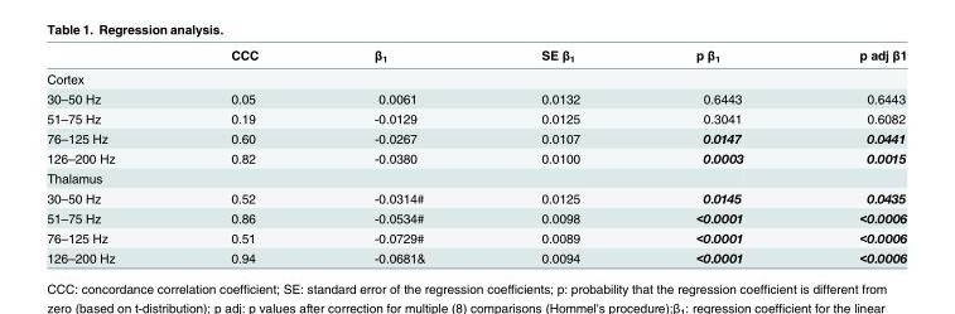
<table><thead><tr><td></td><td>CCC</td><td>β<sub>1</sub></td><td>SE β<sub>1</sub></td><td>p β<sub>1</sub></td><td>p adj β1</td></tr></thead><tbody><tr><td colspan="6">Cortex</td></tr><tr><td>30–50 Hz</td><td>0.05</td><td>0.0061</td><td>0.0132</td><td>0.6443</td><td>0.6443</td></tr><tr><td>51–75 Hz</td><td>0.19</td><td>-0.0129</td><td>0.0125</td><td>0.3041</td><td>0.6082</td></tr><tr><td>76–125 Hz</td><td>0.60</td><td>-0.0267</td><td>0.0107</td><td>0.0147</td><td>0.0441</td></tr><tr><td>126–200 Hz</td><td>0.82</td><td>-0.0380</td><td>0.0100</td><td>0.0003</td><td>0.0015</td></tr><tr><td colspan="6">Thalamus</td></tr><tr><td>30–50 Hz</td><td>0.52</td><td>-0.0314#</td><td>0.0125</td><td>0.0145</td><td>0.0435</td></tr><tr><td>51–75 Hz</td><td>0.86</td><td>-0.0534#</td><td>0.0098</td><td>&lt;0.0001</td><td>&lt;0.0006</td></tr><tr><td>76–125 Hz</td><td>0.51</td><td>-0.0729#</td><td>0.0089</td><td>&lt;0.0001</td><td>&lt;0.0006</td></tr><tr><td>126–200 Hz</td><td>0.94</td><td>-0.0681&amp;</td><td>0.0094</td><td>&lt;0.0001</td><td>&lt;0.0006</td></tr></tbody></table>